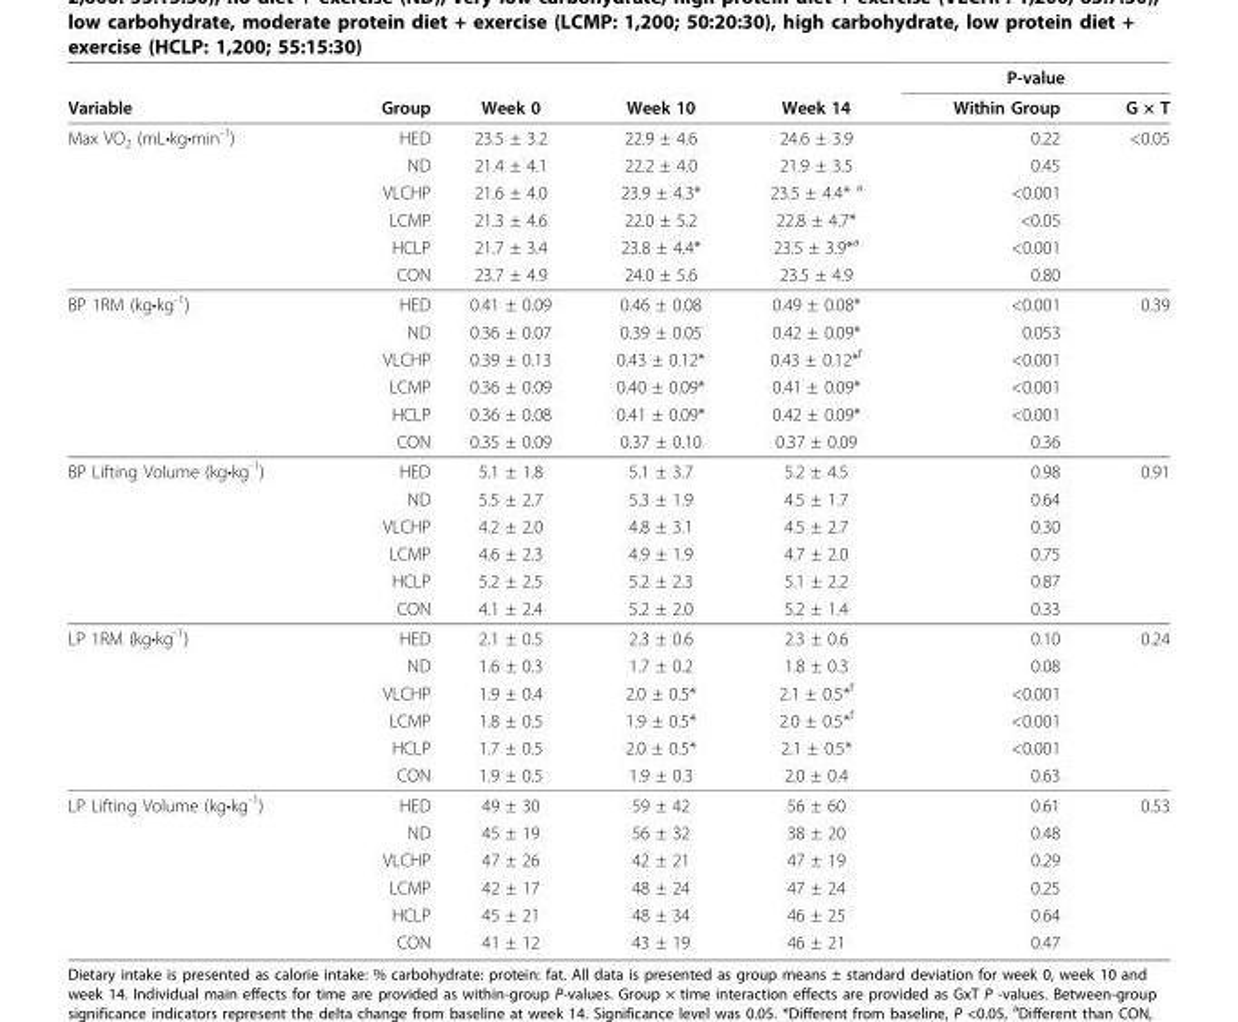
<table><thead><tr><td rowspan="2">Variable</td><td rowspan="2">Group</td><td rowspan="2">Week 0</td><td rowspan="2">Week 10</td><td rowspan="2">Week 14</td><td colspan="2">P-value</td></tr><tr><td>Within Group</td><td>G × T</td></tr></thead><tbody><tr><td rowspan="6">Max VO<sub>2</sub> (mL•kg•min<sup>-1</sup>)</td><td>HED</td><td>23.5 ± 3.2</td><td>22.9 ± 4.6</td><td>24.6 ± 3.9</td><td>0.22</td><td>&lt;0.05</td></tr><tr><td>ND</td><td>21.4 ± 4.1</td><td>22.2 ± 4.0</td><td>21.9 ± 3.5</td><td>0.45</td><td></td></tr><tr><td>VLCHP</td><td>21.6 ± 4.0</td><td>23.9 ± 4.3*</td><td>23.5 ± 4.4* <sup>a</sup></td><td>&lt;0.001</td><td></td></tr><tr><td>LCMP</td><td>21.3 ± 4.6</td><td>22.0 ± 5.2</td><td>22.8 ± 4.7*</td><td>&lt;0.05</td><td></td></tr><tr><td>HCLP</td><td>21.7 ± 3.4</td><td>23.8 ± 4.4*</td><td>23.5 ± 3.9*<sup>a</sup></td><td>&lt;0.001</td><td></td></tr><tr><td>CON</td><td>23.7 ± 4.9</td><td>24.0 ± 5.6</td><td>23.5 ± 4.9</td><td>0.80</td><td></td></tr><tr><td rowspan="6">BP 1RM (kg•kg<sup>-1</sup>)</td><td>HED</td><td>0.41 ± 0.09</td><td>0.46 ± 0.08</td><td>0.49 ± 0.08*</td><td>&lt;0.001</td><td>0.39</td></tr><tr><td>ND</td><td>0.36 ± 0.07</td><td>0.39 ± 0.05</td><td>0.42 ± 0.09*</td><td>0.053</td><td></td></tr><tr><td>VLCHP</td><td>0.39 ± 0.13</td><td>0.43 ± 0.12*</td><td>0.43 ± 0.12*<sup>f</sup></td><td>&lt;0.001</td><td></td></tr><tr><td>LCMP</td><td>0.36 ± 0.09</td><td>0.40 ± 0.09*</td><td>0.41 ± 0.09*</td><td>&lt;0.001</td><td></td></tr><tr><td>HCLP</td><td>0.36 ± 0.08</td><td>0.41 ± 0.09*</td><td>0.42 ± 0.09*</td><td>&lt;0.001</td><td></td></tr><tr><td>CON</td><td>0.35 ± 0.09</td><td>0.37 ± 0.10</td><td>0.37 ± 0.09</td><td>0.36</td><td></td></tr><tr><td rowspan="6">BP Lifting Volume (kg•kg<sup>-1</sup>)</td><td>HED</td><td>5.1 ± 1.8</td><td>5.1 ± 3.7</td><td>5.2 ± 4.5</td><td>0.98</td><td>0.91</td></tr><tr><td>ND</td><td>5.5 ± 2.7</td><td>5.3 ± 1.9</td><td>4.5 ± 1.7</td><td>0.64</td><td></td></tr><tr><td>VLCHP</td><td>4.2 ± 2.0</td><td>4.8 ± 3.1</td><td>4.5 ± 2.7</td><td>0.30</td><td></td></tr><tr><td>LCMP</td><td>4.6 ± 2.3</td><td>4.9 ± 1.9</td><td>4.7 ± 2.0</td><td>0.75</td><td></td></tr><tr><td>HCLP</td><td>5.2 ± 2.5</td><td>5.2 ± 2.3</td><td>5.1 ± 2.2</td><td>0.87</td><td></td></tr><tr><td>CON</td><td>4.1 ± 2.4</td><td>5.2 ± 2.0</td><td>5.2 ± 1.4</td><td>0.33</td><td></td></tr><tr><td rowspan="6">LP 1RM (kg•kg<sup>-1</sup>)</td><td>HED</td><td>2.1 ± 0.5</td><td>2.3 ± 0.6</td><td>2.3 ± 0.6</td><td>0.10</td><td>0.24</td></tr><tr><td>ND</td><td>1.6 ± 0.3</td><td>1.7 ± 0.2</td><td>1.8 ± 0.3</td><td>0.08</td><td></td></tr><tr><td>VLCHP</td><td>1.9 ± 0.4</td><td>2.0 ± 0.5*</td><td>2.1 ± 0.5*<sup>f</sup></td><td>&lt;0.001</td><td></td></tr><tr><td>LCMP</td><td>1.8 ± 0.5</td><td>1.9 ± 0.5*</td><td>2.0 ± 0.5*<sup>f</sup></td><td>&lt;0.001</td><td></td></tr><tr><td>HCLP</td><td>1.7 ± 0.5</td><td>2.0 ± 0.5*</td><td>2.1 ± 0.5*</td><td>&lt;0.001</td><td></td></tr><tr><td>CON</td><td>1.9 ± 0.5</td><td>1.9 ± 0.3</td><td>2.0 ± 0.4</td><td>0.63</td><td></td></tr><tr><td rowspan="6">LP Lifting Volume (kg•kg<sup>-1</sup>)</td><td>HED</td><td>49 ± 30</td><td>59 ± 42</td><td>56 ± 60</td><td>0.61</td><td>0.53</td></tr><tr><td>ND</td><td>45 ± 19</td><td>56 ± 32</td><td>38 ± 20</td><td>0.48</td><td></td></tr><tr><td>VLCHP</td><td>47 ± 26</td><td>42 ± 21</td><td>47 ± 19</td><td>0.29</td><td></td></tr><tr><td>LCMP</td><td>42 ± 17</td><td>48 ± 24</td><td>47 ± 24</td><td>0.25</td><td></td></tr><tr><td>HCLP</td><td>45 ± 21</td><td>48 ± 34</td><td>46 ± 25</td><td>0.64</td><td></td></tr><tr><td>CON</td><td>41 ± 12</td><td>43 ± 19</td><td>46 ± 21</td><td>0.47</td><td></td></tr></tbody></table>